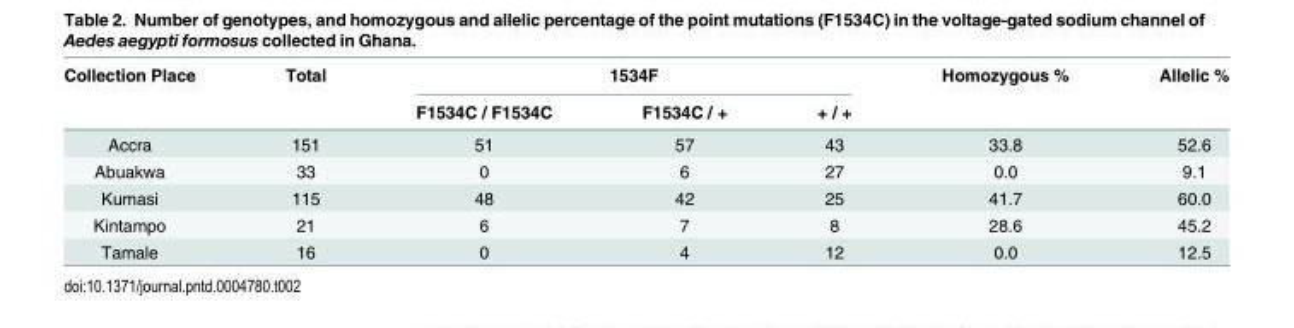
<table><thead><tr><td rowspan="2">Collection Place</td><td rowspan="2">Total</td><td colspan="3">1534F</td><td rowspan="2">Homozygous %</td><td rowspan="2">Allelic %</td></tr><tr><td>F1534C / F1534C</td><td>F1534C / +</td><td>+ / +</td></tr></thead><tbody><tr><td>Accra</td><td>151</td><td>51</td><td>57</td><td>43</td><td>33.8</td><td>52.6</td></tr><tr><td>Abuakwa</td><td>33</td><td>0</td><td>6</td><td>27</td><td>0.0</td><td>9.1</td></tr><tr><td>Kumasi</td><td>115</td><td>48</td><td>42</td><td>25</td><td>41.7</td><td>60.0</td></tr><tr><td>Kintampo</td><td>21</td><td>6</td><td>7</td><td>8</td><td>28.6</td><td>45.2</td></tr><tr><td>Tamale</td><td>16</td><td>0</td><td>4</td><td>12</td><td>0.0</td><td>12.5</td></tr></tbody></table>